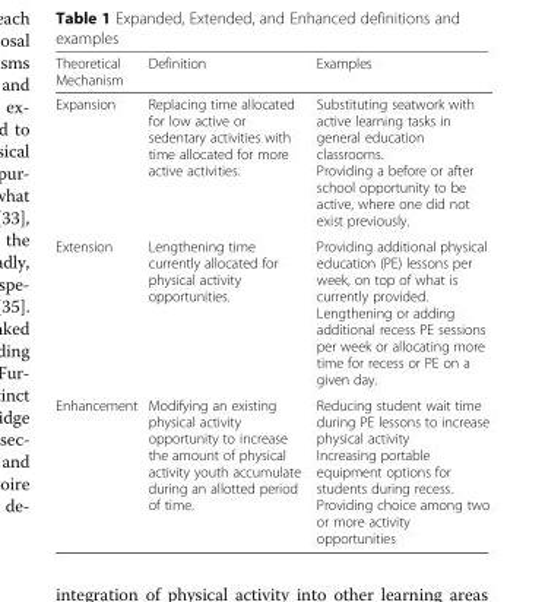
<table><thead><tr><td>Theoretical Mechanism</td><td>Definition</td><td>Examples</td></tr></thead><tbody><tr><td>Expansion</td><td>Replacing time allocated for low active or sedentary activities with time allocated for more active activities.</td><td>Substituting seatwork with active learning tasks in general education classrooms. Providing a before or after school opportunity to be active, where one did not exist previously.</td></tr><tr><td>Extension</td><td>Lengthening time currently allocated for physical activity opportunities.</td><td>Providing additional physical education (PE) lessons per week, on top of what is currently provided. Lengthening or adding additional recess PE sessions per week or allocating more time for recess or PE on a given day.</td></tr><tr><td>Enhancement</td><td>Modifying an existing physical activity opportunity to increase the amount of physical activity youth accumulate during an allotted period of time.</td><td>Reducing student wait time during PE lessons to increase physical activity Increasing portable equipment options for students during recess. Providing choice among two or more activity opportunities</td></tr></tbody></table>